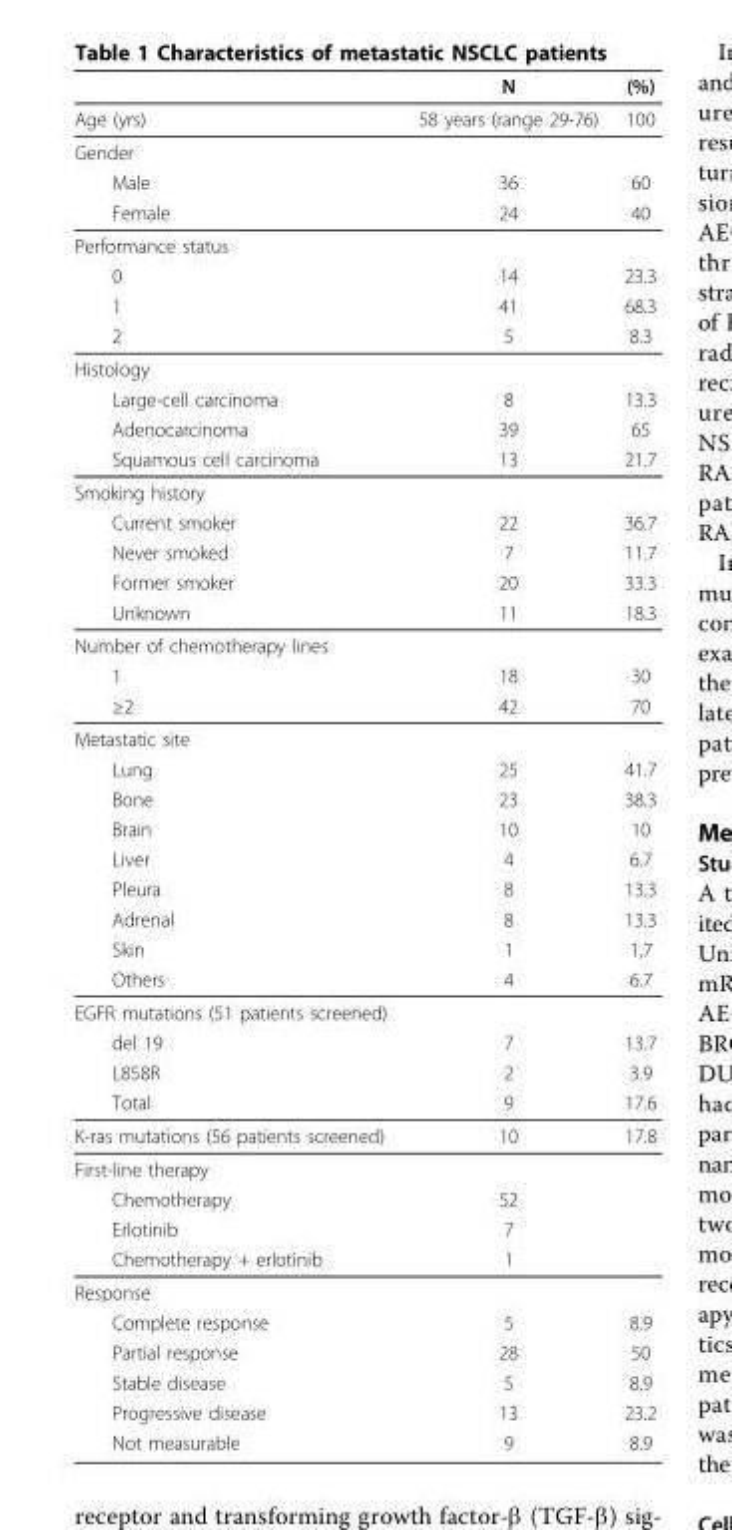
<table><thead><tr><td></td><td>N</td><td>(%)</td></tr></thead><tbody><tr><td>Age (yrs)</td><td>58 years (range 29-76)</td><td>100</td></tr><tr><td colspan="3">Gender</td></tr><tr><td>Male</td><td>36</td><td>60</td></tr><tr><td>Female</td><td>24</td><td>40</td></tr><tr><td colspan="3">Performance status</td></tr><tr><td>0</td><td>14</td><td>23.3</td></tr><tr><td>1</td><td>41</td><td>68.3</td></tr><tr><td>2</td><td>5</td><td>8.3</td></tr><tr><td colspan="3">Histology</td></tr><tr><td>Large-cell carcinoma</td><td>8</td><td>13.3</td></tr><tr><td>Adenocarcinoma</td><td>39</td><td>65</td></tr><tr><td>Squamous cell carcinoma</td><td>13</td><td>21.7</td></tr><tr><td colspan="3">Smoking history</td></tr><tr><td>Current smoker</td><td>22</td><td>36.7</td></tr><tr><td>Never smoked</td><td>7</td><td>11.7</td></tr><tr><td>Former smoker</td><td>20</td><td>33.3</td></tr><tr><td>Unknown</td><td>11</td><td>18.3</td></tr><tr><td colspan="3">Number of chemotherapy lines</td></tr><tr><td>1</td><td>18</td><td>30</td></tr><tr><td>≥2</td><td>42</td><td>70</td></tr><tr><td colspan="3">Metastatic site</td></tr><tr><td>Lung</td><td>25</td><td>41.7</td></tr><tr><td>Bone</td><td>23</td><td>38.3</td></tr><tr><td>Brain</td><td>10</td><td>10</td></tr><tr><td>Liver</td><td>4</td><td>6.7</td></tr><tr><td>Pleura</td><td>8</td><td>13.3</td></tr><tr><td>Adrenal</td><td>8</td><td>13.3</td></tr><tr><td>Skin</td><td>1</td><td>1,7</td></tr><tr><td>Others</td><td>4</td><td>6.7</td></tr><tr><td colspan="3">EGFR mutations (51 patients screened)</td></tr><tr><td>del 19</td><td>7</td><td>13.7</td></tr><tr><td>L858R</td><td>2</td><td>3.9</td></tr><tr><td>Total</td><td>9</td><td>17.6</td></tr><tr><td>K-ras mutations (56 patients screened)</td><td>10</td><td>17.8</td></tr><tr><td colspan="3">First-line therapy</td></tr><tr><td>Chemotherapy</td><td>52</td><td></td></tr><tr><td>Erlotinib</td><td>7</td><td></td></tr><tr><td>Chemotherapy + erlotinib</td><td>1</td><td></td></tr><tr><td colspan="3">Response</td></tr><tr><td>Complete response</td><td>5</td><td>8.9</td></tr><tr><td>Partial response</td><td>28</td><td>50</td></tr><tr><td>Stable disease</td><td>5</td><td>8.9</td></tr><tr><td>Progressive disease</td><td>13</td><td>23.2</td></tr><tr><td>Not measurable</td><td>9</td><td>8.9</td></tr></tbody></table>